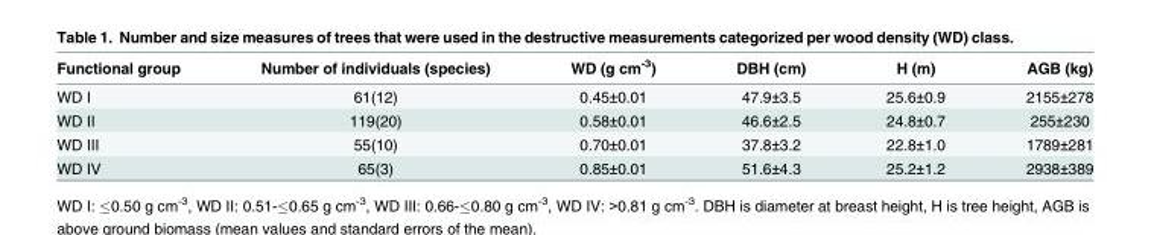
<table><thead><tr><td>Functional group</td><td>Number of individuals (species)</td><td>WD (g cm<sup>-3</sup>)</td><td>DBH (cm)</td><td>H (m)</td><td>AGB (kg)</td></tr></thead><tbody><tr><td>WD I</td><td>61(12)</td><td>0.45±0.01</td><td>47.9±3.5</td><td>25.6±0.9</td><td>2155±278</td></tr><tr><td>WD II</td><td>119(20)</td><td>0.58±0.01</td><td>46.6±2.5</td><td>24.8±0.7</td><td>255±230</td></tr><tr><td>WD III</td><td>55(10)</td><td>0.70±0.01</td><td>37.8±3.2</td><td>22.8±1.0</td><td>1789±281</td></tr><tr><td>WD IV</td><td>65(3)</td><td>0.85±0.01</td><td>51.6±4.3</td><td>25.2±1.2</td><td>2938±389</td></tr></tbody></table>